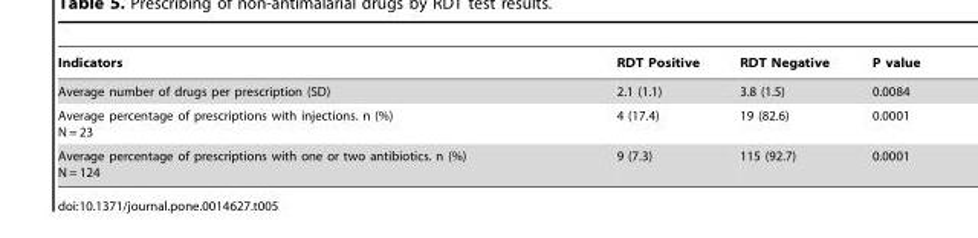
<table><thead><tr><td>Indicators</td><td>RDT Positive</td><td>RDT Negative</td><td>P value</td></tr></thead><tbody><tr><td>Average number of drugs per prescription (SD)</td><td>2.1 (1.1)</td><td>3.8 (1.5)</td><td>0.0084</td></tr><tr><td>Average percentage of prescriptions with injections. n (%) N = 23</td><td>4 (17.4)</td><td>19 (82.6)</td><td>0.0001</td></tr><tr><td>Average percentage of prescriptions with one or two antibiotics. n (%) N = 124</td><td>9 (7.3)</td><td>115 (92.7)</td><td>0.0001</td></tr></tbody></table>